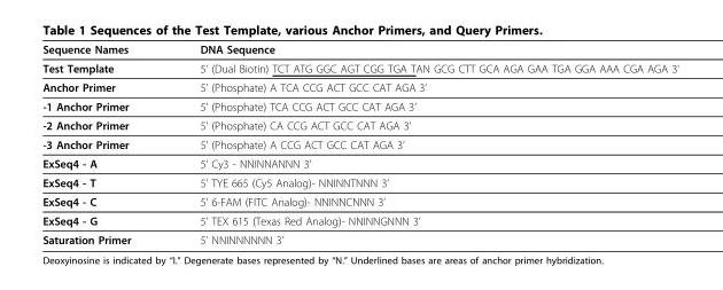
<table><thead><tr><td>Sequence Names</td><td>DNA Sequence</td></tr></thead><tbody><tr><td>Test Template</td><td>5’ (Dual Biotin) TCT ATG GGC AGT CGG TGA TAN GCG CTT GCA AGA GAA TGA GGA AAA CGA AGA 3’</td></tr><tr><td>Anchor Primer</td><td>5’ (Phosphate) A TCA CCG ACT GCC CAT AGA 3’</td></tr><tr><td>-1 Anchor Primer</td><td>5’ (Phosphate) TCA CCG ACT GCC CAT AGA 3’</td></tr><tr><td>-2 Anchor Primer</td><td>5’ (Phosphate) CA CCG ACT GCC CAT AGA 3’</td></tr><tr><td>-3 Anchor Primer</td><td>5’ (Phosphate) A CCG ACT GCC CAT AGA 3’</td></tr><tr><td>ExSeq4 - A</td><td>5’ Cy3 - NNINNANNN 3’</td></tr><tr><td>ExSeq4 - T</td><td>5’ TYE 665 (Cy5 Analog)- NNINNTNNN 3’</td></tr><tr><td>ExSeq4 - C</td><td>5’ 6-FAM (FITC Analog)- NNINNCNNN 3’</td></tr><tr><td>ExSeq4 - G</td><td>5’ TEX 615 (Texas Red Analog)- NNINNGNNN 3’</td></tr><tr><td>Saturation Primer</td><td>5’ NNINNNNNN 3’</td></tr></tbody></table>